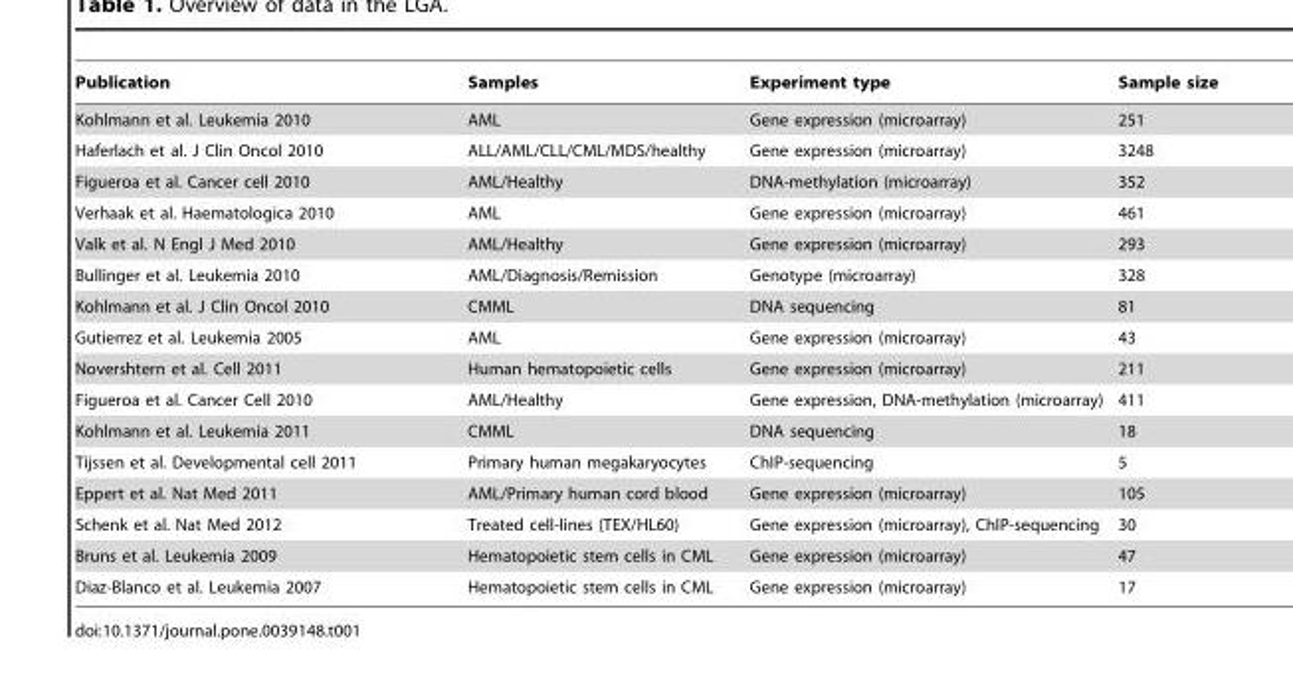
<table><thead><tr><td>Publication</td><td>Samples</td><td>Experiment type</td><td>Sample size</td></tr></thead><tbody><tr><td>Kohlmann et al. Leukemia 2010</td><td>AML</td><td>Gene expression (microarray)</td><td>251</td></tr><tr><td>Haferlach et al. J Clin Oncol 2010</td><td>ALL/AML/CLL/CML/MDS/healthy</td><td>Gene expression (microarray)</td><td>3248</td></tr><tr><td>Figueroa et al. Cancer cell 2010</td><td>AML/Healthy</td><td>DNA-methylation (microarray)</td><td>352</td></tr><tr><td>Verhaak et al. Haematologica 2010</td><td>AML</td><td>Gene expression (microarray)</td><td>461</td></tr><tr><td>Valk et al. N Engl J Med 2010</td><td>AML/Healthy</td><td>Gene expression (microarray)</td><td>293</td></tr><tr><td>Bullinger et al. Leukemia 2010</td><td>AML/Diagnosis/Remission</td><td>Genotype (microarray)</td><td>328</td></tr><tr><td>Kohlmann et al. J Clin Oncol 2010</td><td>CMML</td><td>DNA sequencing</td><td>81</td></tr><tr><td>Gutierrez et al. Leukemia 2005</td><td>AML</td><td>Gene expression (microarray)</td><td>43</td></tr><tr><td>Novershtern et al. Cell 2011</td><td>Human hematopoietic cells</td><td>Gene expression (microarray)</td><td>211</td></tr><tr><td>Figueroa et al. Cancer Cell 2010</td><td>AML/Healthy</td><td>Gene expression, DNA-methylation (microarray)</td><td>411</td></tr><tr><td>Kohlmann et al. Leukemia 2011</td><td>CMML</td><td>DNA sequencing</td><td>18</td></tr><tr><td>Tijssen et al. Developmental cell 2011</td><td>Primary human megakaryocytes</td><td>ChIP-sequencing</td><td>5</td></tr><tr><td>Eppert et al. Nat Med 2011</td><td>AML/Primary human cord blood</td><td>Gene expression (microarray)</td><td>105</td></tr><tr><td>Schenk et al. Nat Med 2012</td><td>Treated cell-lines (TEX/HL60)</td><td>Gene expression (microarray), ChIP-sequencing</td><td>30</td></tr><tr><td>Bruns et al. Leukemia 2009</td><td>Hematopoietic stem cells in CML</td><td>Gene expression (microarray)</td><td>47</td></tr><tr><td>Diaz-Blanco et al. Leukemia 2007</td><td>Hematopoietic stem cells in CML</td><td>Gene expression (microarray)</td><td>17</td></tr></tbody></table>